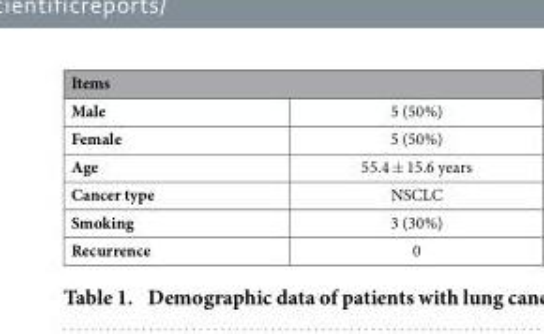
<table><thead><tr><td colspan="2">Items</td></tr><tr><td>Male</td><td>5 (50%)</td></tr></thead><tbody><tr><td>Female</td><td>5 (50%)</td></tr><tr><td>Age</td><td>55.4 ± 15.6 years</td></tr><tr><td>Cancer type</td><td>NSCLC</td></tr><tr><td>Smoking</td><td>3 (30%)</td></tr><tr><td>Recurrence</td><td>0</td></tr></tbody></table>